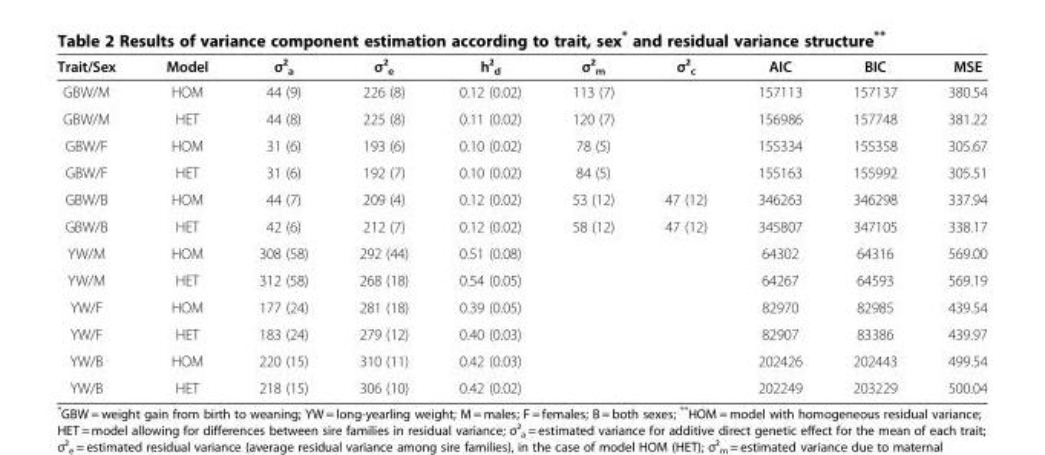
<table><thead><tr><td>Trait/Sex</td><td>Model</td><td>σ²<sub>a</sub></td><td>σ²<sub>e</sub></td><td>h²<sub>d</sub></td><td>σ²<sub>m</sub></td><td>σ²<sub>c</sub></td><td>AIC</td><td>BIC</td><td>MSE</td></tr></thead><tbody><tr><td>GBW/M</td><td>HOM</td><td>44 (9)</td><td>226 (8)</td><td>0.12 (0.02)</td><td>113 (7)</td><td></td><td>157113</td><td>157137</td><td>380.54</td></tr><tr><td>GBW/M</td><td>HET</td><td>44 (8)</td><td>225 (8)</td><td>0.11 (0.02)</td><td>120 (7)</td><td></td><td>156986</td><td>157748</td><td>381.22</td></tr><tr><td>GBW/F</td><td>HOM</td><td>31 (6)</td><td>193 (6)</td><td>0.10 (0.02)</td><td>78 (5)</td><td></td><td>155334</td><td>155358</td><td>305.67</td></tr><tr><td>GBW/F</td><td>HET</td><td>31 (6)</td><td>192 (7)</td><td>0.10 (0.02)</td><td>84 (5)</td><td></td><td>155163</td><td>155992</td><td>305.51</td></tr><tr><td>GBW/B</td><td>HOM</td><td>44 (7)</td><td>209 (4)</td><td>0.12 (0.02)</td><td>53 (12)</td><td>47 (12)</td><td>346263</td><td>346298</td><td>337.94</td></tr><tr><td>GBW/B</td><td>HET</td><td>42 (6)</td><td>212 (7)</td><td>0.12 (0.02)</td><td>58 (12)</td><td>47 (12)</td><td>345807</td><td>347105</td><td>338.17</td></tr><tr><td>YW/M</td><td>HOM</td><td>308 (58)</td><td>292 (44)</td><td>0.51 (0.08)</td><td></td><td></td><td>64302</td><td>64316</td><td>569.00</td></tr><tr><td>YW/M</td><td>HET</td><td>312 (58)</td><td>268 (18)</td><td>0.54 (0.05)</td><td></td><td></td><td>64267</td><td>64593</td><td>569.19</td></tr><tr><td>YW/F</td><td>HOM</td><td>177 (24)</td><td>281 (18)</td><td>0.39 (0.05)</td><td></td><td></td><td>82970</td><td>82985</td><td>439.54</td></tr><tr><td>YW/F</td><td>HET</td><td>183 (24)</td><td>279 (12)</td><td>0.40 (0.03)</td><td></td><td></td><td>82907</td><td>83386</td><td>439.97</td></tr><tr><td>YW/B</td><td>HOM</td><td>220 (15)</td><td>310 (11)</td><td>0.42 (0.03)</td><td></td><td></td><td>202426</td><td>202443</td><td>499.54</td></tr><tr><td>YW/B</td><td>HET</td><td>218 (15)</td><td>306 (10)</td><td>0.42 (0.02)</td><td></td><td></td><td>202249</td><td>203229</td><td>500.04</td></tr></tbody></table>